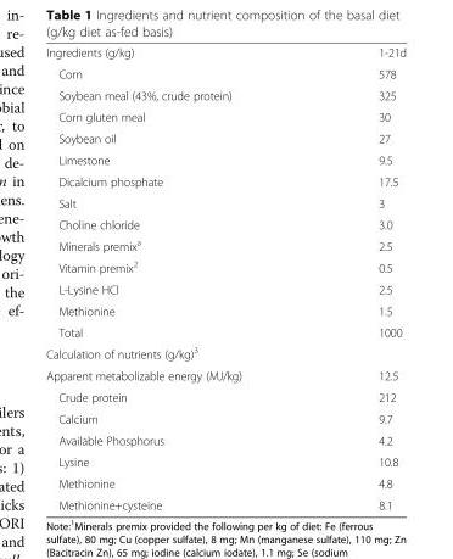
<table><tbody><tr><td>Ingredients (g/kg)</td><td>1-21d</td></tr><tr><td>Corn</td><td>578</td></tr><tr><td>Soybean meal (43%, crude protein)</td><td>325</td></tr><tr><td>Corn gluten meal</td><td>30</td></tr><tr><td>Soybean oil</td><td>27</td></tr><tr><td>Limestone</td><td>9.5</td></tr><tr><td>Dicalcium phosphate</td><td>17.5</td></tr><tr><td>Salt</td><td>3</td></tr><tr><td>Choline chloride</td><td>3.0</td></tr><tr><td>Minerals premix<sup>a</sup></td><td>2.5</td></tr><tr><td>Vitamin premix<sup>2</sup></td><td>0.5</td></tr><tr><td>L-Lysine HCl</td><td>2.5</td></tr><tr><td>Methionine</td><td>1.5</td></tr><tr><td>Total</td><td>1000</td></tr><tr><td colspan="2">Calculation of nutrients (g/kg)<sup>3</sup></td></tr><tr><td>Apparent metabolizable energy (MJ/kg)</td><td>12.5</td></tr><tr><td>Crude protein</td><td>212</td></tr><tr><td>Calcium</td><td>9.7</td></tr><tr><td>Available Phosphorus</td><td>4.2</td></tr><tr><td>Lysine</td><td>10.8</td></tr><tr><td>Methionine</td><td>4.8</td></tr><tr><td>Methionine+cysteine</td><td>8.1</td></tr></tbody></table>